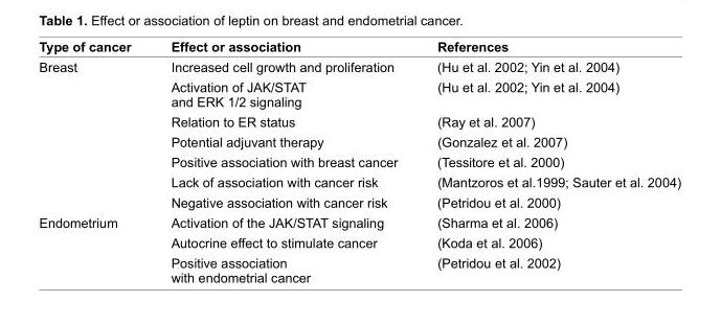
<table><thead><tr><td>Type of cancer</td><td>Effect or association</td><td>References</td></tr></thead><tbody><tr><td rowspan="7">Breast</td><td>Increased cell growth and proliferation</td><td>(Hu et al. 2002; Yin et al. 2004)</td></tr><tr><td>Activation of JAK/STAT and ERK 1/2 signaling</td><td>(Hu et al. 2002; Yin et al. 2004)</td></tr><tr><td>Relation to ER status</td><td>(Ray et al. 2007)</td></tr><tr><td>Potential adjuvant therapy</td><td>(Gonzalez et al. 2007)</td></tr><tr><td>Positive association with breast cancer</td><td>(Tessitore et al. 2000)</td></tr><tr><td>Lack of association with cancer risk</td><td>(Mantzoros et al.1999; Sauter et al. 2004)</td></tr><tr><td>Negative association with cancer risk</td><td>(Petridou et al. 2000)</td></tr><tr><td rowspan="3">Endometrium</td><td>Activation of the JAK/STAT signaling</td><td>(Sharma et al. 2006)</td></tr><tr><td>Autocrine effect to stimulate cancer</td><td>(Koda et al. 2006)</td></tr><tr><td>Positive association with endometrial cancer</td><td>(Petridou et al. 2002)</td></tr></tbody></table>